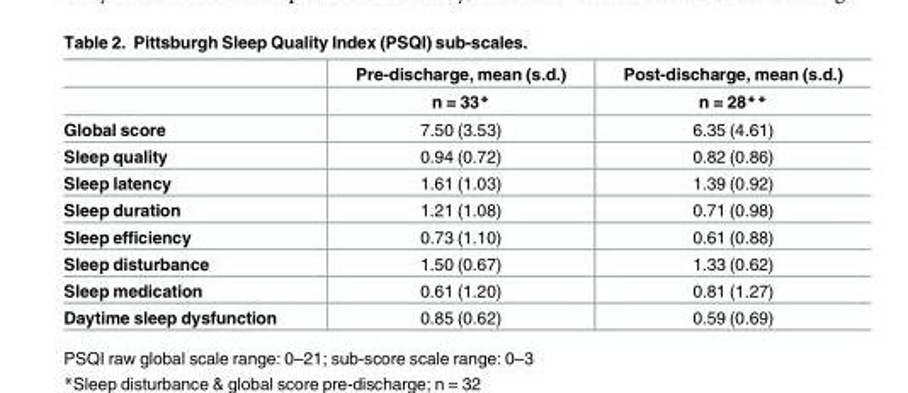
<table><thead><tr><td rowspan="2"></td><td rowspan="2">Pre-discharge, mean (s.d.) n = 33*</td><td rowspan="2">Post-discharge, mean (s.d.) n = 28**</td></tr><tr></tr></thead><tbody><tr><td>Global score</td><td>7.50 (3.53)</td><td>6.35 (4.61)</td></tr><tr><td>Sleep quality</td><td>0.94 (0.72)</td><td>0.82 (0.86)</td></tr><tr><td>Sleep latency</td><td>1.61 (1.03)</td><td>1.39 (0.92)</td></tr><tr><td>Sleep duration</td><td>1.21 (1.08)</td><td>0.71 (0.98)</td></tr><tr><td>Sleep efficiency</td><td>0.73 (1.10)</td><td>0.61 (0.88)</td></tr><tr><td>Sleep disturbance</td><td>1.50 (0.67)</td><td>1.33 (0.62)</td></tr><tr><td>Sleep medication</td><td>0.61 (1.20)</td><td>0.81 (1.27)</td></tr><tr><td>Daytime sleep dysfunction</td><td>0.85 (0.62)</td><td>0.59 (0.69)</td></tr></tbody></table>